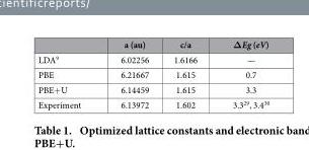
<table><thead><tr><td></td><td>a (au)</td><td>c/a</td><td>ΔEg (eV)</td></tr></thead><tbody><tr><td>LDA<sup>9</sup></td><td>6.02256</td><td>1.6166</td><td>—</td></tr><tr><td>PBE</td><td>6.21667</td><td>1.615</td><td>0.7</td></tr><tr><td>PBE+ U</td><td>6.14459</td><td>1.615</td><td>3.3</td></tr><tr><td>Experiment</td><td>6.13972</td><td>1.602</td><td>3.3<sup>29</sup>, 3.4<sup>30</sup></td></tr></tbody></table>